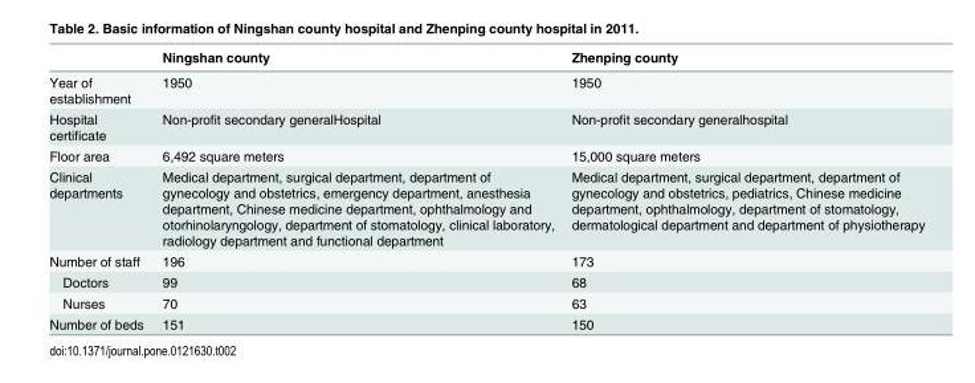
<table><thead><tr><td></td><td>Ningshan county</td><td>Zhenping county</td></tr></thead><tbody><tr><td>Year of establishment</td><td>1950</td><td>1950</td></tr><tr><td>Hospital certificate</td><td>Non-profit secondary generalHospital</td><td>Non-profit secondary generalhospital</td></tr><tr><td>Floor area</td><td>6,492 square meters</td><td>15,000 square meters</td></tr><tr><td>Clinical departments</td><td>Medical department, surgical department, department of gynecology and obstetrics, emergency department, anesthesia department, Chinese medicine department, ophthalmology and otorhinolaryngology, department of stomatology, clinical laboratory, radiology department and functional department</td><td>Medical department, surgical department, department of gynecology and obstetrics, pediatrics, Chinese medicine department, ophthalmology, department of stomatology, dermatological department and department of physiotherapy</td></tr><tr><td>Number of staff</td><td>196</td><td>173</td></tr><tr><td>Doctors</td><td>99</td><td>68</td></tr><tr><td>Nurses</td><td>70</td><td>63</td></tr><tr><td>Number of beds</td><td>151</td><td>150</td></tr></tbody></table>